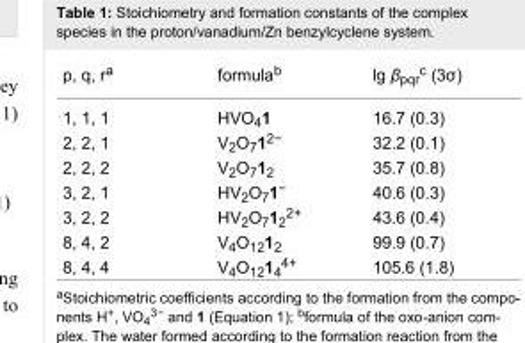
<table><tbody><tr><td>p, q, r<sup>a</sup></td><td>formula<sup>b</sup></td><td>lg β<sub>pqr</sub><sup>c</sup> (3σ)</td></tr><tr><td>1, 1, 1</td><td>HVO<sub>4</sub>1</td><td>16.7 (0.3)</td></tr><tr><td>2, 2, 1</td><td>V<sub>2</sub>O<sub>7</sub>1<sup>2−</sup></td><td>32.2 (0.1)</td></tr><tr><td>2, 2, 2</td><td>V<sub>2</sub>O<sub>7</sub>1<sub>2</sub></td><td>35.7 (0.8)</td></tr><tr><td>3, 2, 1</td><td>HV<sub>2</sub>O<sub>7</sub>1<sup>−</sup></td><td>40.6 (0.3)</td></tr><tr><td>3, 2, 2</td><td>HV<sub>2</sub>O<sub>7</sub>1<sub>2</sub><sup>2+</sup></td><td>43.6 (0.4)</td></tr><tr><td>8, 4, 2</td><td>V<sub>4</sub>O<sub>12</sub>1<sub>2</sub></td><td>99.9 (0.7)</td></tr><tr><td>8, 4, 4</td><td>V<sub>4</sub>O<sub>12</sub>1<sub>4</sub><sup>4+</sup></td><td>105.6 (1.8)</td></tr></tbody></table>